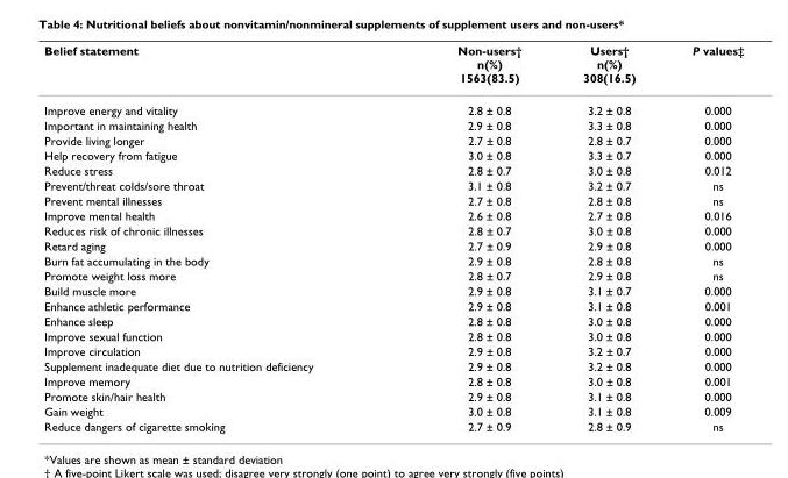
<table><thead><tr><td>Belief statement</td><td>Non-users† n(%) 1563(83.5)</td><td>Users† n(%) 308(16.5)</td><td>P values‡</td></tr></thead><tbody><tr><td>Improve energy and vitality</td><td>2.8 ± 0.8</td><td>3.2 ± 0.8</td><td>0.000</td></tr><tr><td>Important in maintaining health</td><td>2.9 ± 0.8</td><td>3.3 ± 0.8</td><td>0.000</td></tr><tr><td>Provide living longer</td><td>2.7 ± 0.8</td><td>2.8 ± 0.7</td><td>0.000</td></tr><tr><td>Help recovery from fatigue</td><td>3.0 ± 0.8</td><td>3.3 ± 0.7</td><td>0.000</td></tr><tr><td>Reduce stress</td><td>2.8 ± 0.7</td><td>3.0 ± 0.8</td><td>0.012</td></tr><tr><td>Prevent/threat colds/sore throat</td><td>3.1 ± 0.8</td><td>3.2 ± 0.7</td><td>ns</td></tr><tr><td>Prevent mental illnesses</td><td>2.7 ± 0.8</td><td>2.8 ± 0.8</td><td>ns</td></tr><tr><td>Improve mental health</td><td>2.6 ± 0.8</td><td>2.7 ± 0.8</td><td>0.016</td></tr><tr><td>Reduces risk of chronic illnesses</td><td>2.8 ± 0.7</td><td>3.0 ± 0.8</td><td>0.000</td></tr><tr><td>Retard aging</td><td>2.7 ± 0.9</td><td>2.9 ± 0.8</td><td>0.000</td></tr><tr><td>Burn fat accumulating in the body</td><td>2.9 ± 0.8</td><td>2.8 ± 0.8</td><td>ns</td></tr><tr><td>Promote weight loss more</td><td>2.8 ± 0.7</td><td>2.9 ± 0.8</td><td>ns</td></tr><tr><td>Build muscle more</td><td>2.9 ± 0.8</td><td>3.1 ± 0.7</td><td>0.000</td></tr><tr><td>Enhance athletic performance</td><td>2.9 ± 0.8</td><td>3.1 ± 0.8</td><td>0.001</td></tr><tr><td>Enhance sleep</td><td>2.8 ± 0.8</td><td>3.0 ± 0.8</td><td>0.000</td></tr><tr><td>Improve sexual function</td><td>2.8 ± 0.8</td><td>3.0 ± 0.8</td><td>0.000</td></tr><tr><td>Improve circulation</td><td>2.9 ± 0.8</td><td>3.2 ± 0.7</td><td>0.000</td></tr><tr><td>Supplement inadequate diet due to nutrition deficiency</td><td>2.9 ± 0.8</td><td>3.2 ± 0.8</td><td>0.000</td></tr><tr><td>Improve memory</td><td>2.8 ± 0.8</td><td>3.0 ± 0.8</td><td>0.001</td></tr><tr><td>Promote skin/hair health</td><td>2.9 ± 0.8</td><td>3.1 ± 0.8</td><td>0.000</td></tr><tr><td>Gain weight</td><td>3.0 ± 0.8</td><td>3.1 ± 0.8</td><td>0.009</td></tr><tr><td>Reduce dangers of cigarette smoking</td><td>2.7 ± 0.9</td><td>2.8 ± 0.9</td><td>ns</td></tr></tbody></table>